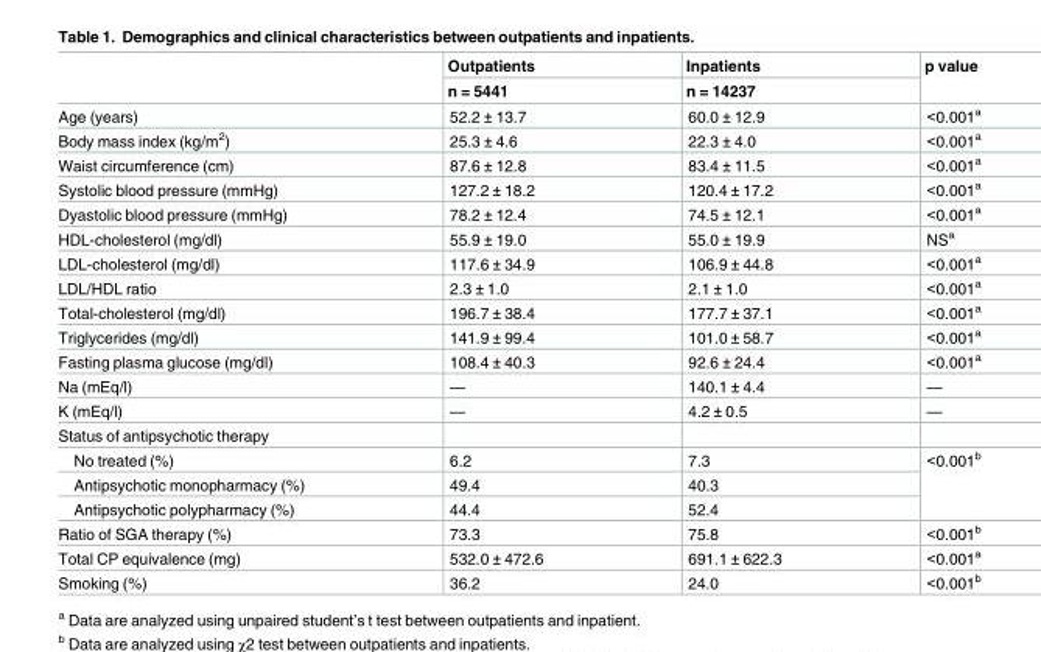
<table><thead><tr><td rowspan="2"></td><td rowspan="2">Outpatients n = 5441</td><td rowspan="2">Inpatients n = 14237</td><td rowspan="2">p value</td></tr><tr></tr></thead><tbody><tr><td>Age (years)</td><td>52.2 ± 13.7</td><td>60.0 ± 12.9</td><td>&lt;0.001<sup>a</sup></td></tr><tr><td>Body mass index (kg/m<sup>2</sup>)</td><td>25.3 ± 4.6</td><td>22.3 ± 4.0</td><td>&lt;0.001<sup>a</sup></td></tr><tr><td>Waist circumference (cm)</td><td>87.6 ± 12.8</td><td>83.4 ± 11.5</td><td>&lt;0.001<sup>a</sup></td></tr><tr><td>Systolic blood pressure (mmHg)</td><td>127.2 ± 18.2</td><td>120.4 ± 17.2</td><td>&lt;0.001<sup>a</sup></td></tr><tr><td>Dyastolic blood pressure (mmHg)</td><td>78.2 ± 12.4</td><td>74.5 ± 12.1</td><td>&lt;0.001<sup>a</sup></td></tr><tr><td>HDL-cholesterol (mg/dl)</td><td>55.9 ± 19.0</td><td>55.0 ± 19.9</td><td>NS<sup>a</sup></td></tr><tr><td>LDL-cholesterol (mg/dl)</td><td>117.6 ± 34.9</td><td>106.9 ± 44.8</td><td>&lt;0.001<sup>a</sup></td></tr><tr><td>LDL/HDL ratio</td><td>2.3 ± 1.0</td><td>2.1 ± 1.0</td><td>&lt;0.001<sup>a</sup></td></tr><tr><td>Total-cholesterol (mg/dl)</td><td>196.7 ± 38.4</td><td>177.7 ± 37.1</td><td>&lt;0.001<sup>a</sup></td></tr><tr><td>Triglycerides (mg/dl)</td><td>141.9 ± 99.4</td><td>101.0 ± 58.7</td><td>&lt;0.001<sup>a</sup></td></tr><tr><td>Fasting plasma glucose (mg/dl)</td><td>108.4 ± 40.3</td><td>92.6 ± 24.4</td><td>&lt;0.001<sup>a</sup></td></tr><tr><td>Na (mEq/l)</td><td>—</td><td>140.1 ± 4.4</td><td>—</td></tr><tr><td>K (mEq/l)</td><td>—</td><td>4.2 ± 0.5</td><td>—</td></tr><tr><td colspan="4">Status of antipsychotic therapy</td></tr><tr><td>No treated (%)</td><td>6.2</td><td>7.3</td><td rowspan="3">&lt;0.001<sup>b</sup></td></tr><tr><td>Antipsychotic monopharmacy (%)</td><td>49.4</td><td>40.3</td></tr><tr><td>Antipsychotic polypharmacy (%)</td><td>44.4</td><td>52.4</td></tr><tr><td>Ratio of SGA therapy (%)</td><td>73.3</td><td>75.8</td><td>&lt;0.001<sup>b</sup></td></tr><tr><td>Total CP equivalence (mg)</td><td>532.0 ± 472.6</td><td>691.1 ± 622.3</td><td>&lt;0.001<sup>a</sup></td></tr><tr><td>Smoking (%)</td><td>36.2</td><td>24.0</td><td>&lt;0.001<sup>b</sup></td></tr></tbody></table>